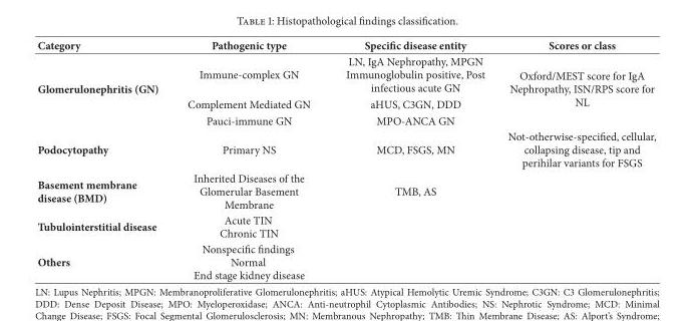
<table><thead><tr><td>Category</td><td>Pathogenic type</td><td>Specific disease entity</td><td>Scores or class</td></tr></thead><tbody><tr><td rowspan="3">Glomerulonephritis (GN)</td><td>Immune-complex GN</td><td>LN, IgA Nephropathy, MPGN Immunoglobulin positive, Post infectious acute GN</td><td rowspan="3">Oxford/MEST score for IgA Nephropathy, ISN/RPS score for NL</td></tr><tr><td>Complement Mediated GN</td><td>aHUS, C3GN, DDD</td></tr><tr><td>Pauci-immune GN</td><td>MPO-ANCA GN</td></tr><tr><td>Podocytopathy</td><td>Primary NS</td><td>MCD, FSGS, MN</td><td>Not-otherwise-specified, cellular, collapsing disease, tip and perihilar variants for FSGS</td></tr><tr><td>Basement membrane disease (BMD)</td><td>Inherited Diseases of the Glomerular Basement Membrane</td><td>TMB, AS</td><td></td></tr><tr><td>Tubulointerstitial disease</td><td>Acute TIN Chronic TIN</td><td></td><td></td></tr><tr><td>Others</td><td>Nonspecific findings Normal End stage kidney disease</td><td></td><td></td></tr></tbody></table>